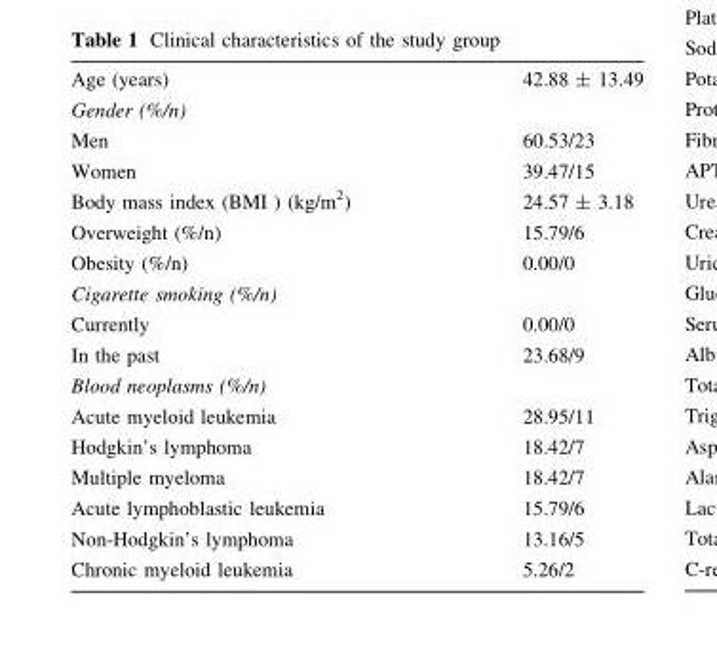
<table><tbody><tr><td>Age (years)</td><td>42.88 ± 13.49</td></tr><tr><td colspan="2">Gender (%/n)</td></tr><tr><td>Men</td><td>60.53/23</td></tr><tr><td>Women</td><td>39.47/15</td></tr><tr><td>Body mass index (BMI ) (kg/m<sup>2</sup>)</td><td>24.57 ± 3.18</td></tr><tr><td>Overweight (%/n)</td><td>15.79/6</td></tr><tr><td>Obesity (%/n)</td><td>0.00/0</td></tr><tr><td colspan="2">Cigarette smoking (%/n)</td></tr><tr><td>Currently</td><td>0.00/0</td></tr><tr><td>In the past</td><td>23.68/9</td></tr><tr><td colspan="2">Blood neoplasms (%/n)</td></tr><tr><td>Acute myeloid leukemia</td><td>28.95/11</td></tr><tr><td>Hodgkin’s lymphoma</td><td>18.42/7</td></tr><tr><td>Multiple myeloma</td><td>18.42/7</td></tr><tr><td>Acute lymphoblastic leukemia</td><td>15.79/6</td></tr><tr><td>Non-Hodgkin’s lymphoma</td><td>13.16/5</td></tr><tr><td>Chronic myeloid leukemia</td><td>5.26/2</td></tr></tbody></table>